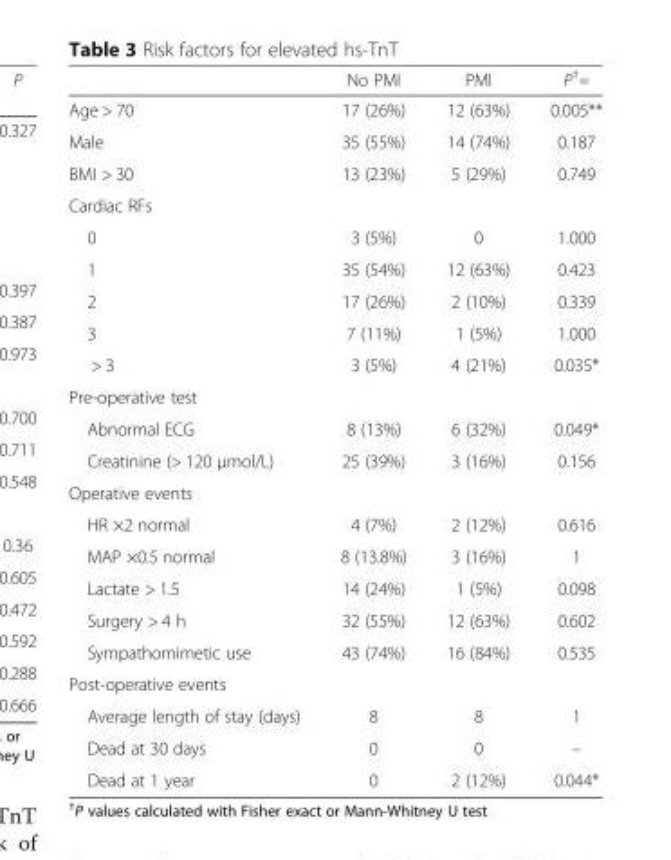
<table><thead><tr><td></td><td>No PMI</td><td>PMI</td><td>P<sup>†</sup>=</td></tr></thead><tbody><tr><td>Age &gt; 70</td><td>17 (26%)</td><td>12 (63%)</td><td>0.005**</td></tr><tr><td>Male</td><td>35 (55%)</td><td>14 (74%)</td><td>0.187</td></tr><tr><td>BMI &gt; 30</td><td>13 (23%)</td><td>5 (29%)</td><td>0.749</td></tr><tr><td colspan="4">Cardiac RFs</td></tr><tr><td>0</td><td>3 (5%)</td><td>0</td><td>1.000</td></tr><tr><td>1</td><td>35 (54%)</td><td>12 (63%)</td><td>0.423</td></tr><tr><td>2</td><td>17 (26%)</td><td>2 (10%)</td><td>0.339</td></tr><tr><td>3</td><td>7 (11%)</td><td>1 (5%)</td><td>1.000</td></tr><tr><td>&gt; 3</td><td>3 (5%)</td><td>4 (21%)</td><td>0.035*</td></tr><tr><td colspan="4">Pre-operative test</td></tr><tr><td>Abnormal ECG</td><td>8 (13%)</td><td>6 (32%)</td><td>0.049*</td></tr><tr><td>Creatinine (&gt; 120 μmol/L)</td><td>25 (39%)</td><td>3 (16%)</td><td>0.156</td></tr><tr><td colspan="4">Operative events</td></tr><tr><td>HR ×2 normal</td><td>4 (7%)</td><td>2 (12%)</td><td>0.616</td></tr><tr><td>MAP ×0.5 normal</td><td>8 (13.8%)</td><td>3 (16%)</td><td>1</td></tr><tr><td>Lactate &gt; 1.5</td><td>14 (24%)</td><td>1 (5%)</td><td>0.098</td></tr><tr><td>Surgery &gt; 4 h</td><td>32 (55%)</td><td>12 (63%)</td><td>0.602</td></tr><tr><td>Sympathomimetic use</td><td>43 (74%)</td><td>16 (84%)</td><td>0.535</td></tr><tr><td colspan="4">Post-operative events</td></tr><tr><td>Average length of stay (days)</td><td>8</td><td>8</td><td>1</td></tr><tr><td>Dead at 30 days</td><td>0</td><td>0</td><td>–</td></tr><tr><td>Dead at 1 year</td><td>0</td><td>2 (12%)</td><td>0.044*</td></tr></tbody></table>